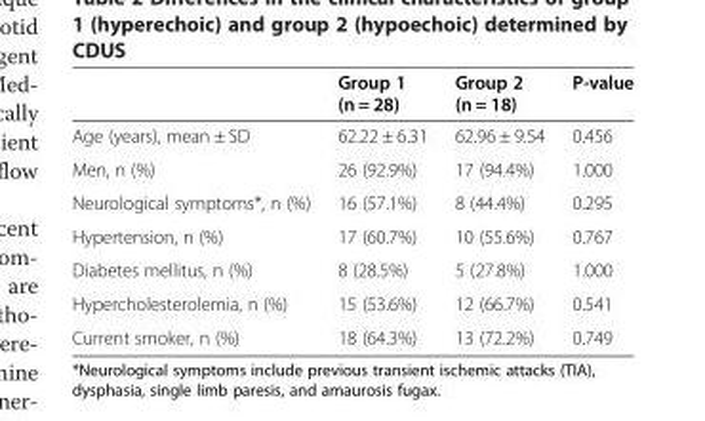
<table><thead><tr><td></td><td>Group 1 (n = 28)</td><td>Group 2 (n = 18)</td><td>P-value</td></tr></thead><tbody><tr><td>Age (years), mean ± SD</td><td>62.22 ± 6.31</td><td>62.96 ± 9.54</td><td>0.456</td></tr><tr><td>Men, n (%)</td><td>26 (92.9%)</td><td>17 (94.4%)</td><td>1.000</td></tr><tr><td>Neurological symptoms*, n (%)</td><td>16 (57.1%)</td><td>8 (44.4%)</td><td>0.295</td></tr><tr><td>Hypertension, n (%)</td><td>17 (60.7%)</td><td>10 (55.6%)</td><td>0.767</td></tr><tr><td>Diabetes mellitus, n (%)</td><td>8 (28.5%)</td><td>5 (27.8%)</td><td>1.000</td></tr><tr><td>Hypercholesterolemia, n (%)</td><td>15 (53.6%)</td><td>12 (66.7%)</td><td>0.541</td></tr><tr><td>Current smoker, n (%)</td><td>18 (64.3%)</td><td>13 (72.2%)</td><td>0.749</td></tr></tbody></table>